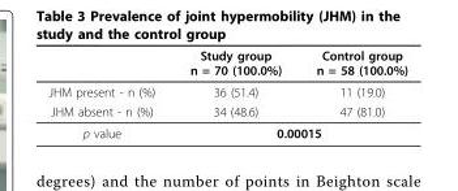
<table><thead><tr><td></td><td>Study group n = 70 (100.0%)</td><td>Control group n = 58 (100.0%)</td></tr></thead><tbody><tr><td>JHM present - n (%)</td><td>36 (51.4)</td><td>11 (19.0)</td></tr><tr><td>JHM absent - n (%)</td><td>34 (48.6)</td><td>47 (81.0)</td></tr><tr><td>p value</td><td colspan="2">0.00015</td></tr></tbody></table>